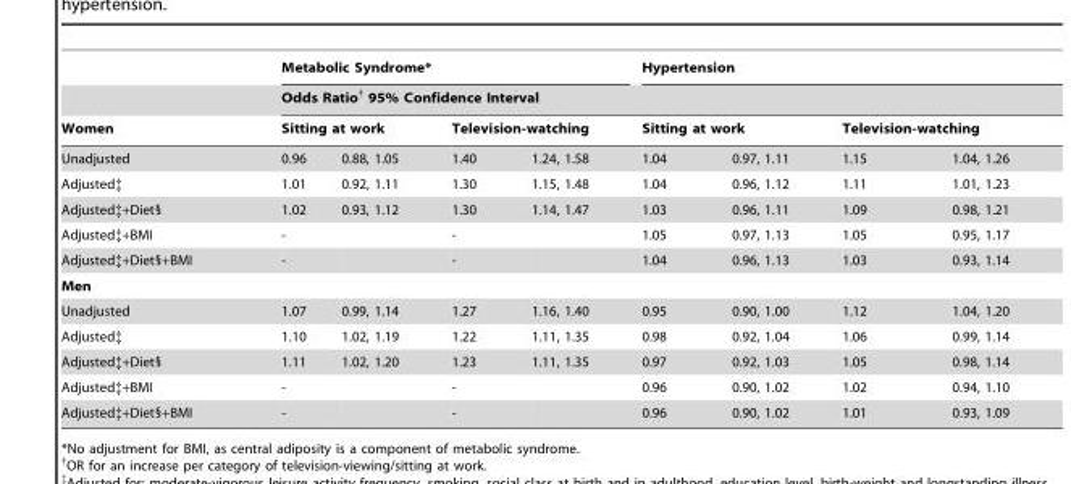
<table><thead><tr><td rowspan="4">Women Unadjusted</td><td colspan="4">Metabolic Syndrome*</td><td colspan="4">Hypertension</td></tr><tr><td colspan="8">Odds Ratio† 95% Confidence Interval</td></tr><tr><td colspan="2">Sitting at work</td><td colspan="2">Television-watching</td><td colspan="2">Sitting at work</td><td colspan="2">Television-watching</td></tr><tr><td>0.96</td><td>0.88, 1.05</td><td>1.40</td><td>1.24, 1.58</td><td>1.04</td><td>0.97, 1.11</td><td>1.15</td><td>1.04, 1.26</td></tr></thead><tbody><tr><td>Adjusted‡</td><td>1.01</td><td>0.92, 1.11</td><td>1.30</td><td>1.15, 1.48</td><td>1.04</td><td>0.96, 1.12</td><td>1.11</td><td>1.01, 1.23</td></tr><tr><td>Adjusted‡+Diet§</td><td>1.02</td><td>0.93, 1.12</td><td>1.30</td><td>1.14, 1.47</td><td>1.03</td><td>0.96, 1.11</td><td>1.09</td><td>0.98, 1.21</td></tr><tr><td>Adjusted‡+BMI</td><td>-</td><td></td><td>-</td><td></td><td>1.05</td><td>0.97, 1.13</td><td>1.05</td><td>0.95, 1.17</td></tr><tr><td>Adjusted‡+Diet§+BMI</td><td>-</td><td></td><td>-</td><td></td><td>1.04</td><td>0.96, 1.13</td><td>1.03</td><td>0.93, 1.14</td></tr><tr><td colspan="9">Men</td></tr><tr><td>Unadjusted</td><td>1.07</td><td>0.99, 1.14</td><td>1.27</td><td>1.16, 1.40</td><td>0.95</td><td>0.90, 1.00</td><td>1.12</td><td>1.04, 1.20</td></tr><tr><td>Adjusted‡</td><td>1.10</td><td>1.02, 1.19</td><td>1.22</td><td>1.11, 1.35</td><td>0.98</td><td>0.92, 1.04</td><td>1.06</td><td>0.99, 1.14</td></tr><tr><td>Adjusted‡+Diet§</td><td>1.11</td><td>1.02, 1.20</td><td>1.23</td><td>1.11, 1.35</td><td>0.97</td><td>0.92, 1.03</td><td>1.05</td><td>0.98, 1.14</td></tr><tr><td>Adjusted‡+BMI</td><td>-</td><td></td><td>-</td><td></td><td>0.96</td><td>0.90, 1.02</td><td>1.02</td><td>0.94, 1.10</td></tr><tr><td>Adjusted‡+Diet§+BMI</td><td>-</td><td></td><td>-</td><td></td><td>0.96</td><td>0.90, 1.02</td><td>1.01</td><td>0.93, 1.09</td></tr></tbody></table>